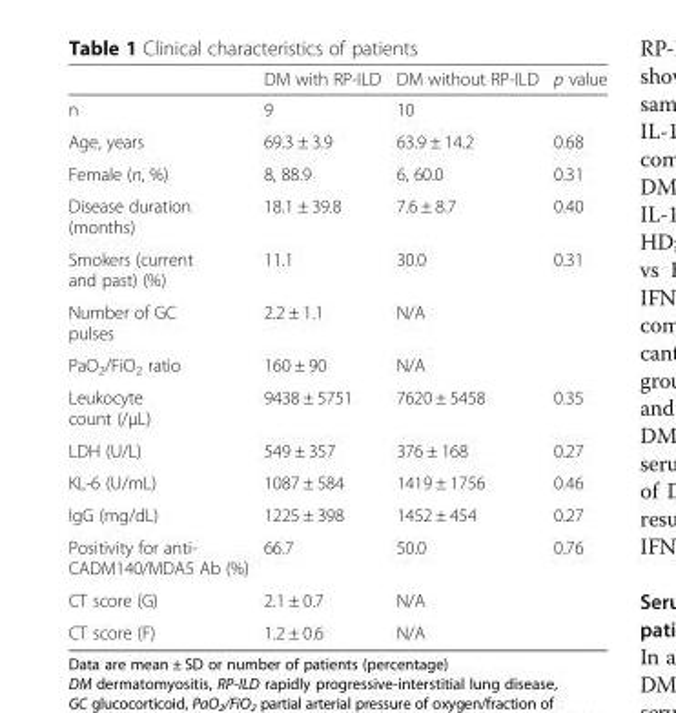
<table><thead><tr><td></td><td>DM with RP-ILD</td><td>DM without RP-ILD</td><td>p value</td></tr></thead><tbody><tr><td>n</td><td>9</td><td>10</td><td></td></tr><tr><td>Age, years</td><td>69.3 ± 3.9</td><td>63.9 ± 14.2</td><td>0.68</td></tr><tr><td>Female (n, %)</td><td>8, 88.9</td><td>6, 60.0</td><td>0.31</td></tr><tr><td>Disease duration (months)</td><td>18.1 ± 39.8</td><td>7.6 ± 8.7</td><td>0.40</td></tr><tr><td>Smokers (current and past) (%)</td><td>11.1</td><td>30.0</td><td>0.31</td></tr><tr><td>Number of GC pulses</td><td>2.2 ± 1.1</td><td>N/A</td><td></td></tr><tr><td>PaO<sub>2</sub>/FiO<sub>2</sub> ratio</td><td>160 ± 90</td><td>N/A</td><td></td></tr><tr><td>Leukocyte count (/μL)</td><td>9438 ± 5751</td><td>7620 ± 5458</td><td>0.35</td></tr><tr><td>LDH (U/L)</td><td>549 ± 357</td><td>376 ± 168</td><td>0.27</td></tr><tr><td>KL-6 (U/mL)</td><td>1087 ± 584</td><td>1419 ± 1756</td><td>0.46</td></tr><tr><td>IgG (mg/dL)</td><td>1225 ± 398</td><td>1452 ± 454</td><td>0.27</td></tr><tr><td>Positivity for anti- CADM140/MDA5 Ab (%)</td><td>66.7</td><td>50.0</td><td>0.76</td></tr><tr><td>CT score (G)</td><td>2.1 ± 0.7</td><td>N/A</td><td></td></tr><tr><td>CT score (F)</td><td>1.2 ± 0.6</td><td>N/A</td><td></td></tr></tbody></table>